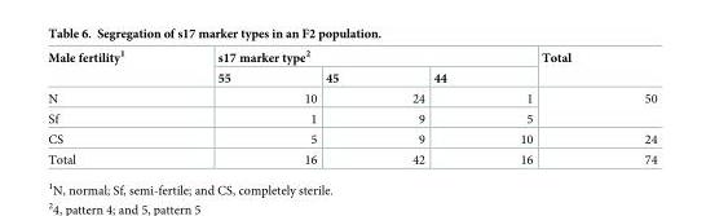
<table><thead><tr><td rowspan="2">Male fertility<sup>1</sup></td><td colspan="3">s17 marker type<sup>2</sup></td><td rowspan="2">Total</td></tr><tr><td>55</td><td>45</td><td>44</td></tr></thead><tbody><tr><td>N</td><td>10</td><td>24</td><td>1</td><td rowspan="2">50</td></tr><tr><td>Sf</td><td>1</td><td>9</td><td>5</td></tr><tr><td>CS</td><td>5</td><td>9</td><td>10</td><td>24</td></tr><tr><td>Total</td><td>16</td><td>42</td><td>16</td><td>74</td></tr></tbody></table>